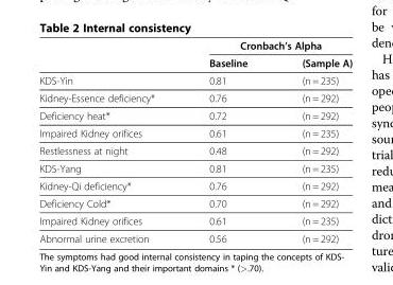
<table><thead><tr><td rowspan="2"></td><td colspan="2">Cronbach’s Alpha</td></tr><tr><td>Baseline</td><td>(Sample A)</td></tr></thead><tbody><tr><td>KDS-Yin</td><td>0.81</td><td>(n = 235)</td></tr><tr><td>Kidney-Essence deficiency*</td><td>0.76</td><td>(n = 292)</td></tr><tr><td>Deficiency heat*</td><td>0.72</td><td>(n = 292)</td></tr><tr><td>Impaired Kidney orifices</td><td>0.61</td><td>(n = 235)</td></tr><tr><td>Restlessness at night</td><td>0.48</td><td>(n = 292)</td></tr><tr><td>KDS-Yang</td><td>0.81</td><td>(n = 235)</td></tr><tr><td>Kidney-Qi deficiency*</td><td>0.76</td><td>(n = 292)</td></tr><tr><td>Deficiency Cold*</td><td>0.70</td><td>(n = 292)</td></tr><tr><td>Impaired Kidney orifices</td><td>0.61</td><td>(n = 235)</td></tr><tr><td>Abnormal urine excretion</td><td>0.56</td><td>(n = 292)</td></tr></tbody></table>